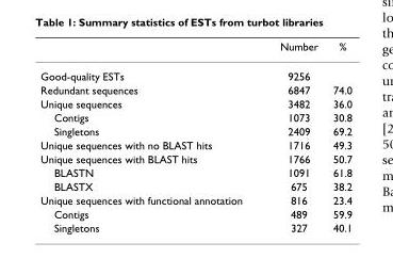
<table><thead><tr><td></td><td>Number</td><td>%</td></tr></thead><tbody><tr><td>Good-quality ESTs</td><td>9256</td><td></td></tr><tr><td>Redundant sequences</td><td>6847</td><td>74.0</td></tr><tr><td>Unique sequences</td><td>3482</td><td>36.0</td></tr><tr><td>Contigs</td><td>1073</td><td>30.8</td></tr><tr><td>Singletons</td><td>2409</td><td>69.2</td></tr><tr><td>Unique sequences with no BLAST hits</td><td>1716</td><td>49.3</td></tr><tr><td>Unique sequences with BLAST hits</td><td>1766</td><td>50.7</td></tr><tr><td>BLASTN</td><td>1091</td><td>61.8</td></tr><tr><td>BLASTX</td><td>675</td><td>38.2</td></tr><tr><td>Unique sequences with functional annotation</td><td>816</td><td>23.4</td></tr><tr><td>Contigs</td><td>489</td><td>59.9</td></tr><tr><td>Singletons</td><td>327</td><td>40.1</td></tr></tbody></table>